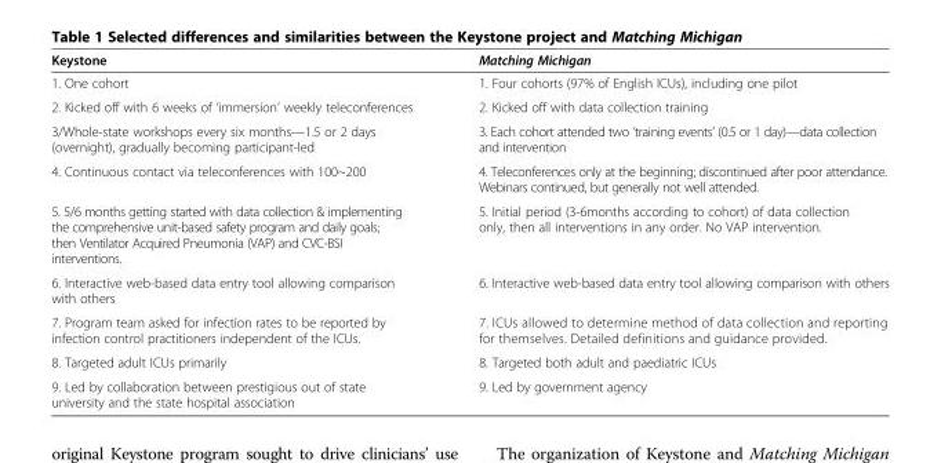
<table><thead><tr><td>Keystone</td><td>Matching Michigan</td></tr></thead><tbody><tr><td>1. One cohort</td><td>1. Four cohorts (97% of English ICUs), including one pilot</td></tr><tr><td>2. Kicked off with 6 weeks of ‘immersion’ weekly teleconferences</td><td>2. Kicked off with data collection training</td></tr><tr><td>3/Whole-state workshops every six months—1.5 or 2 days (overnight), gradually becoming participant-led</td><td>3. Each cohort attended two ‘training events’ (0.5 or 1 day)—data collection and intervention</td></tr><tr><td>4. Continuous contact via teleconferences with 100~200</td><td>4. Teleconferences only at the beginning; discontinued after poor attendance. Webinars continued, but generally not well attended.</td></tr><tr><td>5. 5/6 months getting started with data collection &amp; implementing the comprehensive unit-based safety program and daily goals; then Ventilator Acquired Pneumonia (VAP) and CVC-BSI interventions.</td><td>5. Initial period (3-6months according to cohort) of data collection only, then all interventions in any order. No VAP intervention.</td></tr><tr><td>6. Interactive web-based data entry tool allowing comparison with others</td><td>6. Interactive web-based data entry tool allowing comparison with others</td></tr><tr><td>7. Program team asked for infection rates to be reported by infection control practitioners independent of the ICUs.</td><td>7. ICUs allowed to determine method of data collection and reporting for themselves. Detailed definitions and guidance provided.</td></tr><tr><td>8. Targeted adult ICUs primarily</td><td>8. Targeted both adult and paediatric ICUs</td></tr><tr><td>9. Led by collaboration between prestigious out of state university and the state hospital association</td><td>9. Led by government agency</td></tr></tbody></table>